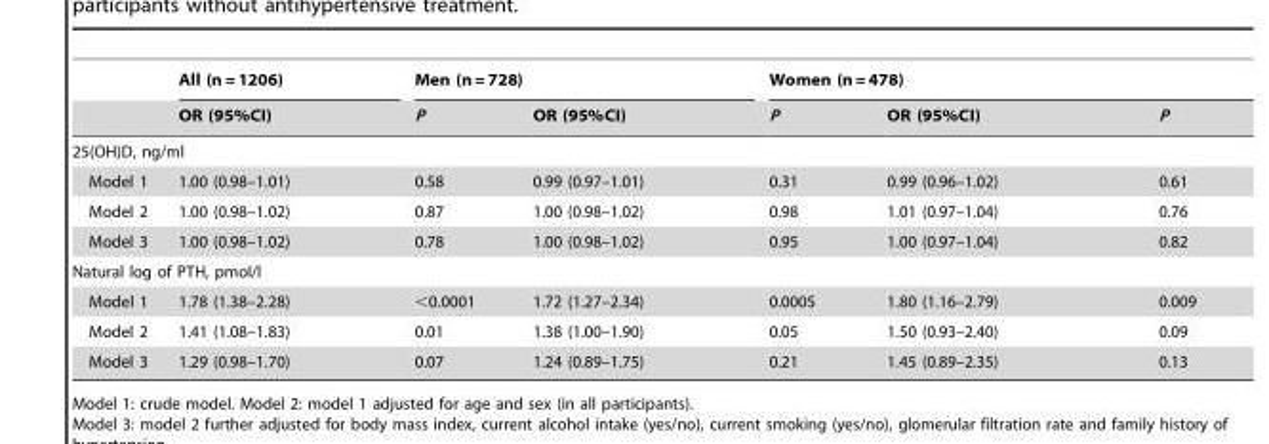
<table><thead><tr><td rowspan="2"></td><td rowspan="2">All (n = 1206) OR (95%CI)</td><td colspan="2">Men (n = 728)</td><td colspan="3">Women (n = 478)</td></tr><tr><td>P</td><td>OR (95%CI)</td><td>P</td><td>OR (95%CI)</td><td>P</td></tr></thead><tbody><tr><td colspan="7">25(OH)D, ng/ml</td></tr><tr><td>Model 1</td><td>1.00 (0.98–1.01)</td><td>0.58</td><td>0.99 (0.97–1.01)</td><td>0.31</td><td>0.99 (0.96–1.02)</td><td>0.61</td></tr><tr><td>Model 2</td><td>1.00 (0.98–1.02)</td><td>0.87</td><td>1.00 (0.98–1.02)</td><td>0.98</td><td>1.01 (0.97–1.04)</td><td>0.76</td></tr><tr><td>Model 3</td><td>1.00 (0.98–1.02)</td><td>0.78</td><td>1.00 (0.98–1.02)</td><td>0.95</td><td>1.00 (0.97–1.04)</td><td>0.82</td></tr><tr><td colspan="7">Natural log of PTH, pmol/l</td></tr><tr><td>Model 1</td><td>1.78 (1.38–2.28)</td><td>&lt;0.0001</td><td>1.72 (1.27–2.34)</td><td>0.0005</td><td>1.80 (1.16–2.79)</td><td>0.009</td></tr><tr><td>Model 2</td><td>1.41 (1.08–1.83)</td><td>0.01</td><td>1.38 (1.00–1.90)</td><td>0.05</td><td>1.50 (0.93–2.40)</td><td>0.09</td></tr><tr><td>Model 3</td><td>1.29 (0.98–1.70)</td><td>0.07</td><td>1.24 (0.89–1.75)</td><td>0.21</td><td>1.45 (0.89–2.35)</td><td>0.13</td></tr></tbody></table>